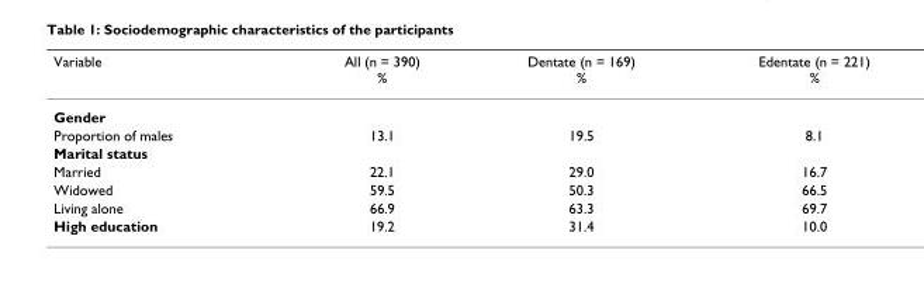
<table><thead><tr><td>Variable</td><td>All (n = 390) %</td><td>Dentate (n = 169) %</td><td>Edentate (n = 221) %</td></tr></thead><tbody><tr><td colspan="4">Gender</td></tr><tr><td>Proportion of males</td><td>13.1</td><td>19.5</td><td>8.1</td></tr><tr><td colspan="4">Marital status</td></tr><tr><td>Married</td><td>22.1</td><td>29.0</td><td>16.7</td></tr><tr><td>Widowed</td><td>59.5</td><td>50.3</td><td>66.5</td></tr><tr><td>Living alone</td><td>66.9</td><td>63.3</td><td>69.7</td></tr><tr><td>High education</td><td>19.2</td><td>31.4</td><td>10.0</td></tr></tbody></table>